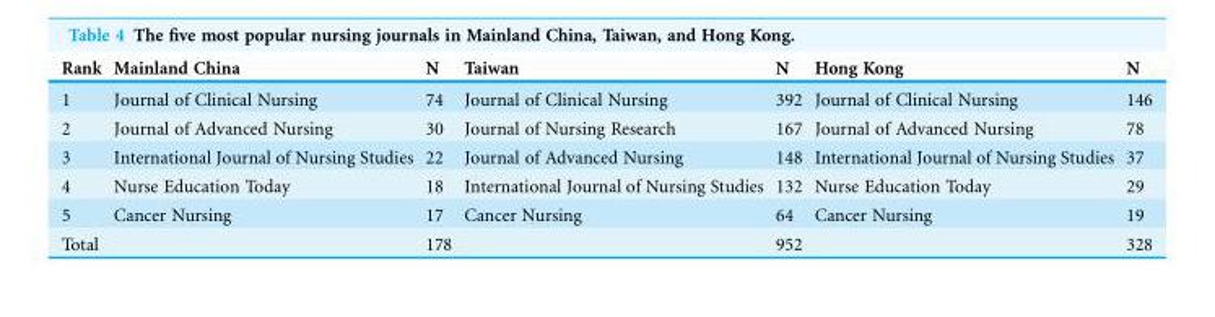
<table><thead><tr><td>Rank</td><td>Mainland China</td><td>N</td><td>Taiwan</td><td>N</td><td>Hong Kong</td><td>N</td></tr></thead><tbody><tr><td>1</td><td>Journal of Clinical Nursing</td><td>74</td><td>Journal of Clinical Nursing</td><td>392</td><td>Journal of Clinical Nursing</td><td>146</td></tr><tr><td>2</td><td>Journal of Advanced Nursing</td><td>30</td><td>Journal of Nursing Research</td><td>167</td><td>Journal of Advanced Nursing</td><td>78</td></tr><tr><td>3</td><td>International Journal of Nursing Studies</td><td>22</td><td>Journal of Advanced Nursing</td><td>148</td><td>International Journal of Nursing Studies</td><td>37</td></tr><tr><td>4</td><td>Nurse Education Today</td><td>18</td><td>International Journal of Nursing Studies</td><td>132</td><td>Nurse Education Today</td><td>29</td></tr><tr><td>5</td><td>Cancer Nursing</td><td>17</td><td>Cancer Nursing</td><td>64</td><td>Cancer Nursing</td><td>19</td></tr><tr><td>Total</td><td></td><td>178</td><td></td><td>952</td><td></td><td>328</td></tr></tbody></table>